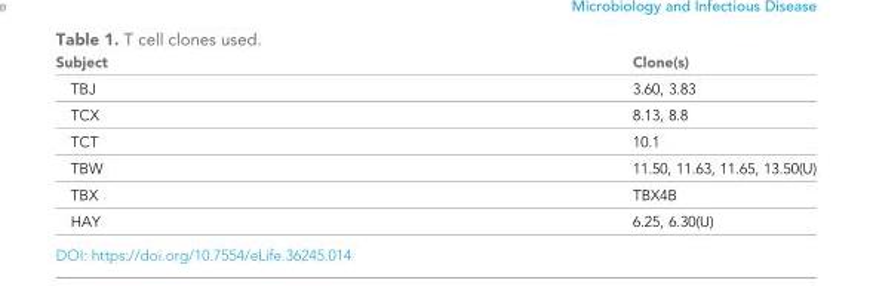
<table><thead><tr><td>Subject</td><td>Clone(s)</td></tr></thead><tbody><tr><td>TBJ</td><td>3.60, 3.83</td></tr><tr><td>TCX</td><td>8.13, 8.8</td></tr><tr><td>TCT</td><td>10.1</td></tr><tr><td>TBW</td><td>11.50, 11.63, 11.65, 13.50(U)</td></tr><tr><td>TBX</td><td>TBX4B</td></tr><tr><td>HAY</td><td>6.25, 6.30(U)</td></tr></tbody></table>